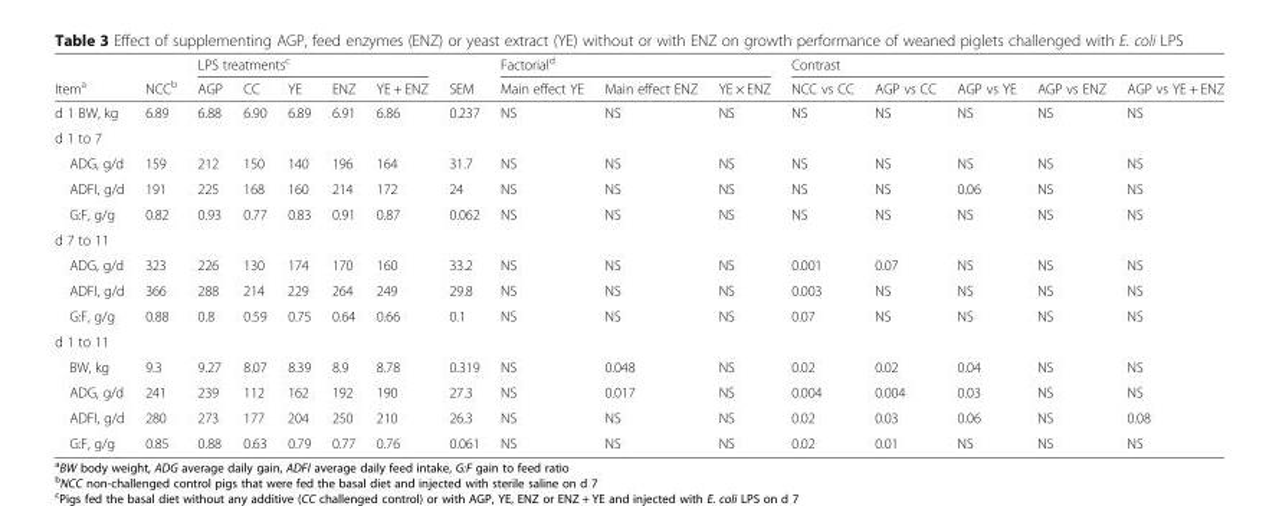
<table><thead><tr><td rowspan="2">Item<sup>a</sup></td><td rowspan="2">NCC<sup>b</sup></td><td colspan="5">LPS treatments<sup>c</sup></td><td rowspan="2">SEM</td><td colspan="3">Factorial<sup>d</sup></td><td colspan="5">Contrast</td></tr><tr><td>AGP</td><td>CC</td><td>YE</td><td>ENZ</td><td>YE + ENZ</td><td>Main effect YE</td><td>Main effect ENZ</td><td>YE × ENZ</td><td>NCC vs CC</td><td>AGP vs CC</td><td>AGP vs YE</td><td>AGP vs ENZ</td><td>AGP vs YE + ENZ</td></tr></thead><tbody><tr><td>d 1 BW, kg</td><td>6.89</td><td>6.88</td><td>6.90</td><td>6.89</td><td>6.91</td><td>6.86</td><td>0.237</td><td>NS</td><td>NS</td><td>NS</td><td>NS</td><td>NS</td><td>NS</td><td>NS</td><td>NS</td></tr><tr><td colspan="16">d 1 to 7</td></tr><tr><td>ADG, g/d</td><td>159</td><td>212</td><td>150</td><td>140</td><td>196</td><td>164</td><td>31.7</td><td>NS</td><td>NS</td><td>NS</td><td>NS</td><td>NS</td><td>NS</td><td>NS</td><td>NS</td></tr><tr><td>ADFI, g/d</td><td>191</td><td>225</td><td>168</td><td>160</td><td>214</td><td>172</td><td>24</td><td>NS</td><td>NS</td><td>NS</td><td>NS</td><td>NS</td><td>0.06</td><td>NS</td><td>NS</td></tr><tr><td>G:F, g/g</td><td>0.82</td><td>0.93</td><td>0.77</td><td>0.83</td><td>0.91</td><td>0.87</td><td>0.062</td><td>NS</td><td>NS</td><td>NS</td><td>NS</td><td>NS</td><td>NS</td><td>NS</td><td>NS</td></tr><tr><td colspan="16">d 7 to 11</td></tr><tr><td>ADG, g/d</td><td>323</td><td>226</td><td>130</td><td>174</td><td>170</td><td>160</td><td>33.2</td><td>NS</td><td>NS</td><td>NS</td><td>0.001</td><td>0.07</td><td>NS</td><td>NS</td><td>NS</td></tr><tr><td>ADFI, g/d</td><td>366</td><td>288</td><td>214</td><td>229</td><td>264</td><td>249</td><td>29.8</td><td>NS</td><td>NS</td><td>NS</td><td>0.003</td><td>NS</td><td>NS</td><td>NS</td><td>NS</td></tr><tr><td>G:F, g/g</td><td>0.88</td><td>0.8</td><td>0.59</td><td>0.75</td><td>0.64</td><td>0.66</td><td>0.1</td><td>NS</td><td>NS</td><td>NS</td><td>0.07</td><td>NS</td><td>NS</td><td>NS</td><td>NS</td></tr><tr><td colspan="16">d 1 to 11</td></tr><tr><td>BW, kg</td><td>9.3</td><td>9.27</td><td>8.07</td><td>8.39</td><td>8.9</td><td>8.78</td><td>0.319</td><td>NS</td><td>0.048</td><td>NS</td><td>0.02</td><td>0.02</td><td>0.04</td><td>NS</td><td>NS</td></tr><tr><td>ADG, g/d</td><td>241</td><td>239</td><td>112</td><td>162</td><td>192</td><td>190</td><td>27.3</td><td>NS</td><td>0.017</td><td>NS</td><td>0.004</td><td>0.004</td><td>0.03</td><td>NS</td><td>NS</td></tr><tr><td>ADFI, g/d</td><td>280</td><td>273</td><td>177</td><td>204</td><td>250</td><td>210</td><td>26.3</td><td>NS</td><td>NS</td><td>NS</td><td>0.02</td><td>0.03</td><td>0.06</td><td>NS</td><td>0.08</td></tr><tr><td>G:F, g/g</td><td>0.85</td><td>0.88</td><td>0.63</td><td>0.79</td><td>0.77</td><td>0.76</td><td>0.061</td><td>NS</td><td>NS</td><td>NS</td><td>0.02</td><td>0.01</td><td>NS</td><td>NS</td><td>NS</td></tr></tbody></table>